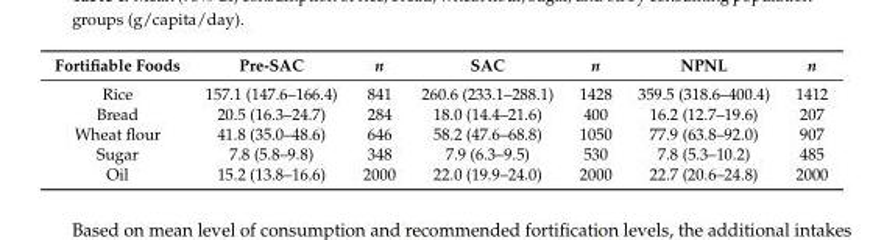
<table><thead><tr><td>Fortifiable Foods</td><td>Pre-SAC</td><td>n</td><td>SAC</td><td>n</td><td>NPNL</td><td>n</td></tr></thead><tbody><tr><td>Rice</td><td>157.1 (147.6–166.4)</td><td>841</td><td>260.6 (233.1–288.1)</td><td>1428</td><td>359.5 (318.6–400.4)</td><td>1412</td></tr><tr><td>Bread</td><td>20.5 (16.3–24.7)</td><td>284</td><td>18.0 (14.4–21.6)</td><td>400</td><td>16.2 (12.7–19.6)</td><td>207</td></tr><tr><td>Wheat flour</td><td>41.8 (35.0–48.6)</td><td>646</td><td>58.2 (47.6–68.8)</td><td>1050</td><td>77.9 (63.8–92.0)</td><td>907</td></tr><tr><td>Sugar</td><td>7.8 (5.8–9.8)</td><td>348</td><td>7.9 (6.3–9.5)</td><td>530</td><td>7.8 (5.3–10.2)</td><td>485</td></tr><tr><td>Oil</td><td>15.2 (13.8–16.6)</td><td>2000</td><td>22.0 (19.9–24.0)</td><td>2000</td><td>22.7 (20.6–24.8)</td><td>2000</td></tr></tbody></table>